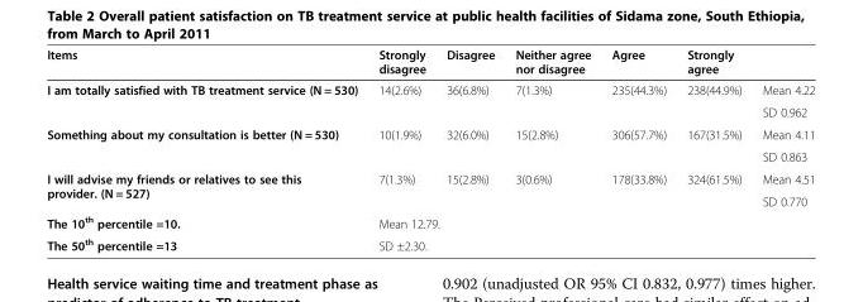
<table><thead><tr><td>Items</td><td>Strongly disagree</td><td>Disagree</td><td>Neither agree nor disagree</td><td>Agree</td><td>Strongly agree</td><td></td></tr></thead><tbody><tr><td rowspan="2">I am totally satisfied with TB treatment service (N = 530)</td><td rowspan="2">14(2.6%)</td><td rowspan="2">36(6.8%)</td><td rowspan="2">7(1.3%)</td><td rowspan="2">235(44.3%)</td><td rowspan="2">238(44.9%)</td><td>Mean 4.22</td></tr><tr><td>SD 0.962</td></tr><tr><td rowspan="2">Something about my consultation is better (N = 530)</td><td rowspan="2">10(1.9%)</td><td rowspan="2">32(6.0%)</td><td rowspan="2">15(2.8%)</td><td rowspan="2">306(57.7%)</td><td rowspan="2">167(31.5%)</td><td>Mean 4.11</td></tr><tr><td>SD 0.863</td></tr><tr><td rowspan="2">I will advise my friends or relatives to see this provider. (N = 527)</td><td rowspan="2">7(1.3%)</td><td rowspan="2">15(2.8%)</td><td rowspan="2">3(0.6%)</td><td rowspan="2">178(33.8%)</td><td rowspan="2">324(61.5%)</td><td>Mean 4.51</td></tr><tr><td>SD 0.770</td></tr><tr><td>The 10<sup>th</sup> percentile =10.</td><td colspan="6">Mean 12.79.</td></tr><tr><td>The 50<sup>th</sup> percentile =13</td><td colspan="6">SD ±2.30.</td></tr></tbody></table>